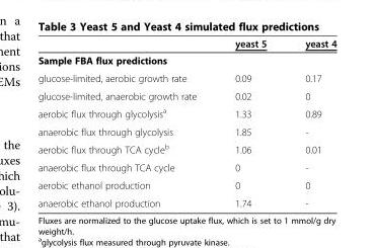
<table><thead><tr><td></td><td>yeast 5</td><td>yeast 4</td></tr></thead><tbody><tr><td colspan="3">Sample FBA flux predictions</td></tr><tr><td>glucose-limited, aerobic growth rate</td><td>0.09</td><td>0.17</td></tr><tr><td>glucose-limited, anaerobic growth rate</td><td>0.02</td><td>0</td></tr><tr><td>aerobic flux through glycolysis<sup>a</sup></td><td>1.33</td><td>0.89</td></tr><tr><td>anaerobic flux through glycolysis</td><td>1.85</td><td>-</td></tr><tr><td>aerobic flux through TCA cycle<sup>b</sup></td><td>1.06</td><td>0.01</td></tr><tr><td>anaerobic flux through TCA cycle</td><td>0</td><td>-</td></tr><tr><td>aerobic ethanol production</td><td>0</td><td>0</td></tr><tr><td>anaerobic ethanol production</td><td>1.74</td><td>-</td></tr></tbody></table>